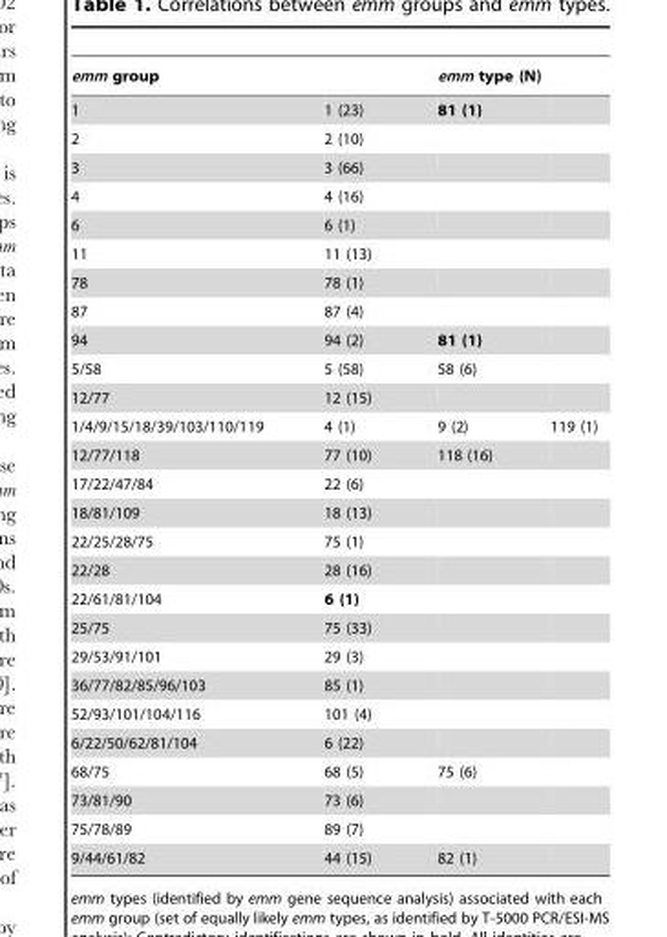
<table><thead><tr><td>emm group</td><td></td><td>emm type (N)</td><td></td></tr></thead><tbody><tr><td>1</td><td>1 (23)</td><td>81 (1)</td><td></td></tr><tr><td>2</td><td>2 (10)</td><td></td><td></td></tr><tr><td>3</td><td>3 (66)</td><td></td><td></td></tr><tr><td>4</td><td>4 (16)</td><td></td><td></td></tr><tr><td>6</td><td>6 (1)</td><td></td><td></td></tr><tr><td>11</td><td>11 (13)</td><td></td><td></td></tr><tr><td>78</td><td>78 (1)</td><td></td><td></td></tr><tr><td>87</td><td>87 (4)</td><td></td><td></td></tr><tr><td>94</td><td>94 (2)</td><td>81 (1)</td><td></td></tr><tr><td>5/58</td><td>5 (58)</td><td>58 (6)</td><td></td></tr><tr><td>12/77</td><td>12 (15)</td><td></td><td></td></tr><tr><td>1/4/9/15/18/39/103/110/119</td><td>4 (1)</td><td>9 (2)</td><td>119 (1)</td></tr><tr><td>12/77/118</td><td>77 (10)</td><td>118 (16)</td><td></td></tr><tr><td>17/22/47/84</td><td>22 (6)</td><td></td><td></td></tr><tr><td>18/81/109</td><td>18 (13)</td><td></td><td></td></tr><tr><td>22/25/28/75</td><td>75 (1)</td><td></td><td></td></tr><tr><td>22/28</td><td>28 (16)</td><td></td><td></td></tr><tr><td>22/61/81/104</td><td>6 (1)</td><td></td><td></td></tr><tr><td>25/75</td><td>75 (33)</td><td></td><td></td></tr><tr><td>29/53/91/101</td><td>29 (3)</td><td></td><td></td></tr><tr><td>36/77/82/85/96/103</td><td>85 (1)</td><td></td><td></td></tr><tr><td>52/93/101/104/116</td><td>101 (4)</td><td></td><td></td></tr><tr><td>6/22/50/62/81/104</td><td>6 (22)</td><td></td><td></td></tr><tr><td>68/75</td><td>68 (5)</td><td>75 (6)</td><td></td></tr><tr><td>73/81/90</td><td>73 (6)</td><td></td><td></td></tr><tr><td>75/78/89</td><td>89 (7)</td><td></td><td></td></tr><tr><td>9/44/61/82</td><td>44 (15)</td><td>82 (1)</td><td></td></tr></tbody></table>